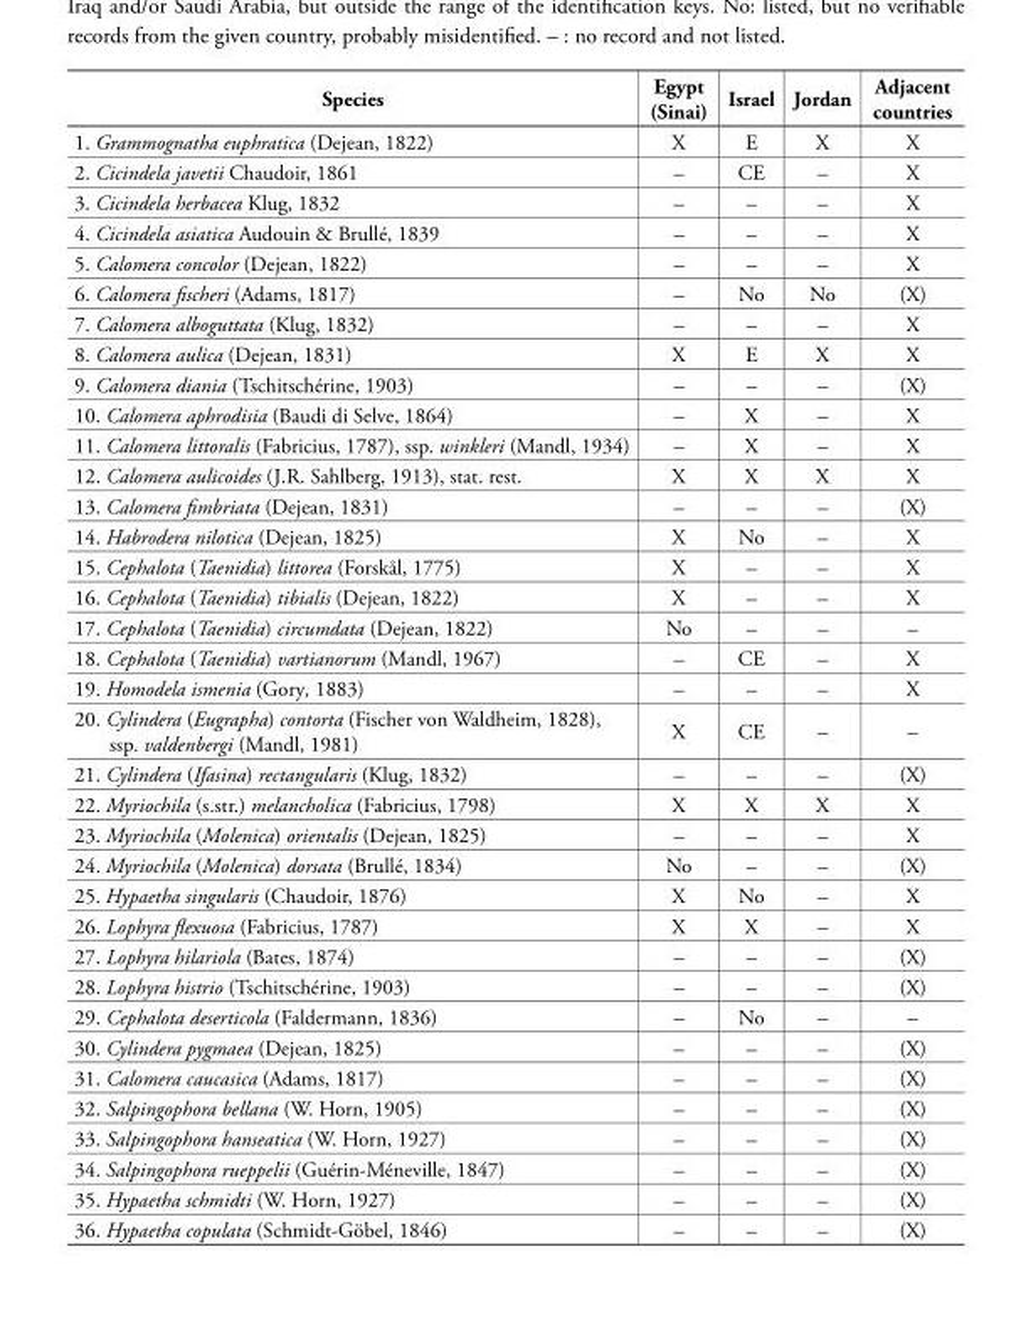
<table><thead><tr><td>Species</td><td>Egypt (Sinai)</td><td>Israel</td><td>Jordan</td><td>Adjacent countries</td></tr></thead><tbody><tr><td>1. Grammognatha euphratica (Dejean, 1822)</td><td>X</td><td>E</td><td>X</td><td>X</td></tr><tr><td>2. Cicindela javetii Chaudoir, 1861</td><td>–</td><td>CE</td><td>–</td><td>X</td></tr><tr><td>3. Cicindela herbacea Klug, 1832</td><td>–</td><td>–</td><td>–</td><td>X</td></tr><tr><td>4. Cicindela asiatica Audouin &amp; Brullé, 1839</td><td>–</td><td>–</td><td>–</td><td>X</td></tr><tr><td>5. Calomera concolor (Dejean, 1822)</td><td>–</td><td>–</td><td>–</td><td>X</td></tr><tr><td>6. Calomera fischeri (Adams, 1817)</td><td>–</td><td>No</td><td>No</td><td>(X)</td></tr><tr><td>7. Calomera alboguttata (Klug, 1832)</td><td>–</td><td>–</td><td>–</td><td>X</td></tr><tr><td>8. Calomera aulica (Dejean, 1831)</td><td>X</td><td>E</td><td>X</td><td>X</td></tr><tr><td>9. Calomera diania (Tschitschérine, 1903)</td><td>–</td><td>–</td><td>–</td><td>(X)</td></tr><tr><td>10. Calomera aphrodisia (Baudi di Selve, 1864)</td><td>–</td><td>X</td><td>–</td><td>X</td></tr><tr><td>11. Calomera littoralis (Fabricius, 1787), ssp. winkleri (Mandl, 1934)</td><td>–</td><td>X</td><td>–</td><td>X</td></tr><tr><td>12. Calomera aulicoides (J.R. Sahlberg, 1913), stat. rest.</td><td>X</td><td>X</td><td>X</td><td>X</td></tr><tr><td>13. Calomera fimbriata (Dejean, 1831)</td><td>–</td><td>–</td><td>–</td><td>(X)</td></tr><tr><td>14. Habrodera nilotica (Dejean, 1825)</td><td>X</td><td>No</td><td>–</td><td>X</td></tr><tr><td>15. Cephalota (Taenidia) littorea (Forskål, 1775)</td><td>X</td><td>–</td><td>–</td><td>X</td></tr><tr><td>16. Cephalota (Taenidia) tibialis (Dejean, 1822)</td><td>X</td><td>–</td><td>–</td><td>X</td></tr><tr><td>17. Cephalota (Taenidia) circumdata (Dejean, 1822)</td><td>No</td><td>–</td><td>–</td><td>–</td></tr><tr><td>18. Cephalota (Taenidia) vartianorum (Mandl, 1967)</td><td>–</td><td>CE</td><td>–</td><td>X</td></tr><tr><td>19. Homodela ismenia (Gory, 1883)</td><td>–</td><td>–</td><td>–</td><td>X</td></tr><tr><td>20. Cylindera (Eugrapha) contorta (Fischer von Waldheim, 1828), ssp. valdenbergi (Mandl, 1981)</td><td>X</td><td>CE</td><td>–</td><td>–</td></tr><tr><td>21. Cylindera (Ifasina) rectangularis (Klug, 1832)</td><td>–</td><td>–</td><td>–</td><td>(X)</td></tr><tr><td>22. Myriochila (s.str.) melancholica (Fabricius, 1798)</td><td>X</td><td>X</td><td>X</td><td>X</td></tr><tr><td>23. Myriochila (Molenica) orientalis (Dejean, 1825)</td><td>–</td><td>–</td><td>–</td><td>X</td></tr><tr><td>24. Myriochila (Molenica) dorsata (Brullé, 1834)</td><td>No</td><td>–</td><td>–</td><td>(X)</td></tr><tr><td>25. Hypaetha singularis (Chaudoir, 1876)</td><td>X</td><td>No</td><td>–</td><td>X</td></tr><tr><td>26. Lophyra flexuosa (Fabricius, 1787)</td><td>X</td><td>X</td><td>–</td><td>X</td></tr><tr><td>27. Lophyra hilariola (Bates, 1874)</td><td>–</td><td>–</td><td>–</td><td>(X)</td></tr><tr><td>28. Lophyra histrio (Tschitschérine, 1903)</td><td>–</td><td>–</td><td>–</td><td>(X)</td></tr><tr><td>29. Cephalota deserticola (Faldermann, 1836)</td><td>–</td><td>No</td><td>–</td><td>–</td></tr><tr><td>30. Cylindera pygmaea (Dejean, 1825)</td><td>–</td><td>–</td><td>–</td><td>(X)</td></tr><tr><td>31. Calomera caucasica (Adams, 1817)</td><td>–</td><td>–</td><td>–</td><td>(X)</td></tr><tr><td>32. Salpingophora bellana (W. Horn, 1905)</td><td>–</td><td>–</td><td>–</td><td>(X)</td></tr><tr><td>33. Salpingophora hanseatica (W. Horn, 1927)</td><td>–</td><td>–</td><td>–</td><td>(X)</td></tr><tr><td>34. Salpingophora rueppelii (Guérin-Méneville, 1847)</td><td>–</td><td>–</td><td>–</td><td>(X)</td></tr><tr><td>35. Hypaetha schmidti (W. Horn, 1927)</td><td>–</td><td>–</td><td>–</td><td>(X)</td></tr><tr><td>36. Hypaetha copulata (Schmidt-Göbel, 1846)</td><td>–</td><td>–</td><td>–</td><td>(X)</td></tr></tbody></table>